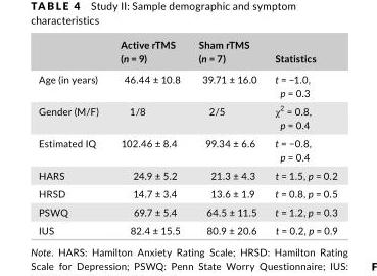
<table><thead><tr><td></td><td>Active rTMS (n = 9)</td><td>Sham rTMS (n = 7)</td><td>Statistics</td></tr></thead><tbody><tr><td>Age (in years)</td><td>46.44 ± 10.8</td><td>39.71 ± 16.0</td><td>t = −1.0, p = 0.3</td></tr><tr><td>Gender (M/F)</td><td>1/8</td><td>2/5</td><td>χ<sup>2</sup> = 0.8, p = 0.4</td></tr><tr><td>Estimated IQ</td><td>102.46 ± 8.4</td><td>99.34 ± 6.6</td><td>t = −0.8, p = 0.4</td></tr><tr><td>HARS</td><td>24.9 ± 5.2</td><td>21.3 ± 4.3</td><td>t = 1.5, p = 0.2</td></tr><tr><td>HRSD</td><td>14.7 ± 3.4</td><td>13.6 ± 1.9</td><td>t = 0.8, p = 0.5</td></tr><tr><td>PSWQ</td><td>69.7 ± 5.4</td><td>64.5 ± 11.5</td><td>t = 1.2, p = 0.3</td></tr><tr><td>IUS</td><td>82.4 ± 15.5</td><td>80.9 ± 20.6</td><td>t = 0.2, p = 0.9</td></tr></tbody></table>